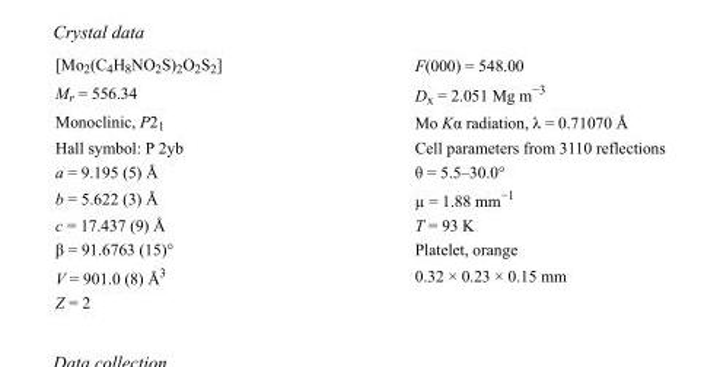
<table><tbody><tr><td>[Mo<sub>2</sub>(C<sub>4</sub>H<sub>8</sub>NO<sub>2</sub>S)<sub>2</sub>O<sub>2</sub>S<sub>2</sub>]</td><td>F(000) = 548.00</td></tr><tr><td>M<sub>r</sub> = 556.34</td><td>D<sub>x</sub> = 2.051 Mg m<sup>−3</sup></td></tr><tr><td>Monoclinic, P2<sub>1</sub></td><td>Mo Kα radiation, λ = 0.71070 Å</td></tr><tr><td>Hall symbol: P 2yb</td><td>Cell parameters from 3110 reflections</td></tr><tr><td>a = 9.195 (5) Å</td><td>θ = 5.5–30.0°</td></tr><tr><td>b = 5.622 (3) Å</td><td>µ = 1.88 mm<sup>−1</sup></td></tr><tr><td>c = 17.437 (9) Å</td><td>T = 93 K</td></tr><tr><td>β = 91.6763 (15)°</td><td>Platelet, orange</td></tr><tr><td>V = 901.0 (8) Å<sup>3</sup></td><td>0.32 × 0.23 × 0.15 mm</td></tr><tr><td>Z = 2</td><td></td></tr></tbody></table>